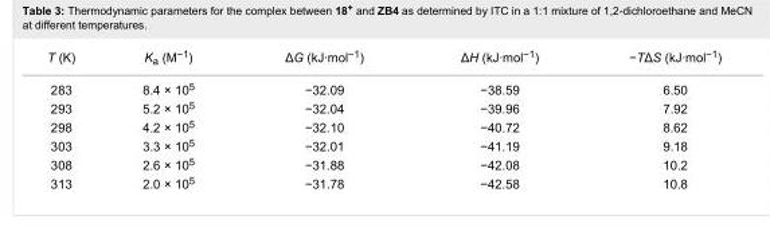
<table><tbody><tr><td>T (K)</td><td>K<sub>a</sub> (M<sup>−1</sup>)</td><td>ΔG (kJ∙mol<sup>−1</sup>)</td><td>ΔH (kJ∙mol<sup>−1</sup>)</td><td>−TΔS (kJ∙mol<sup>−1</sup>)</td></tr><tr><td>283</td><td>8.4 × 10<sup>5</sup></td><td>−32.09</td><td>−38.59</td><td>6.50</td></tr><tr><td>293</td><td>5.2 × 10<sup>5</sup></td><td>−32.04</td><td>−39.96</td><td>7.92</td></tr><tr><td>298</td><td>4.2 × 10<sup>5</sup></td><td>−32.10</td><td>−40.72</td><td>8.62</td></tr><tr><td>303</td><td>3.3 × 10<sup>5</sup></td><td>−32.01</td><td>−41.19</td><td>9.18</td></tr><tr><td>308</td><td>2.6 × 10<sup>5</sup></td><td>−31.88</td><td>−42.08</td><td>10.2</td></tr><tr><td>313</td><td>2.0 × 10<sup>5</sup></td><td>−31.78</td><td>−42.58</td><td>10.8</td></tr></tbody></table>